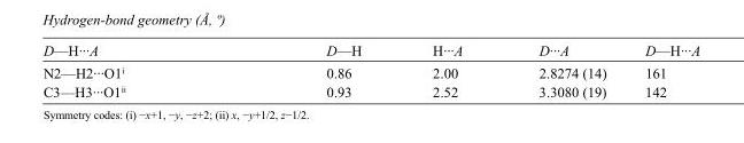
<table><tbody><tr><td>D—H···A</td><td>D—H</td><td>H···A</td><td>D···A</td><td>D—H···A</td></tr><tr><td>N2—H2···O1<sup>i</sup></td><td>0.86</td><td>2.00</td><td>2.8274 (14)</td><td>161</td></tr><tr><td>C3—H3···O1<sup>ii</sup></td><td>0.93</td><td>2.52</td><td>3.3080 (19)</td><td>142</td></tr></tbody></table>